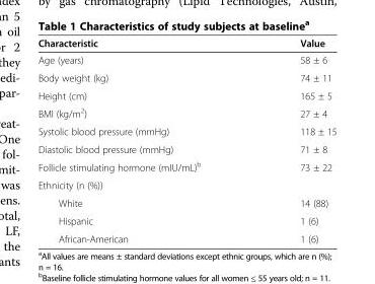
<table><thead><tr><td>Characteristic</td><td>Value</td></tr></thead><tbody><tr><td>Age (years)</td><td>58 ± 6</td></tr><tr><td>Body weight (kg)</td><td>74 ± 11</td></tr><tr><td>Height (cm)</td><td>165 ± 5</td></tr><tr><td>BMI (kg/m<sup>2</sup>)</td><td>27 ± 4</td></tr><tr><td>Systolic blood pressure (mmHg)</td><td>118 ± 15</td></tr><tr><td>Diastolic blood pressure (mmHg)</td><td>71 ± 8</td></tr><tr><td>Follicle stimulating hormone (mIU/mL)<sup>b</sup></td><td>73 ± 22</td></tr><tr><td colspan="2">Ethnicity (n (%))</td></tr><tr><td>White</td><td>14 (88)</td></tr><tr><td>Hispanic</td><td>1 (6)</td></tr><tr><td>African-American</td><td>1 (6)</td></tr></tbody></table>